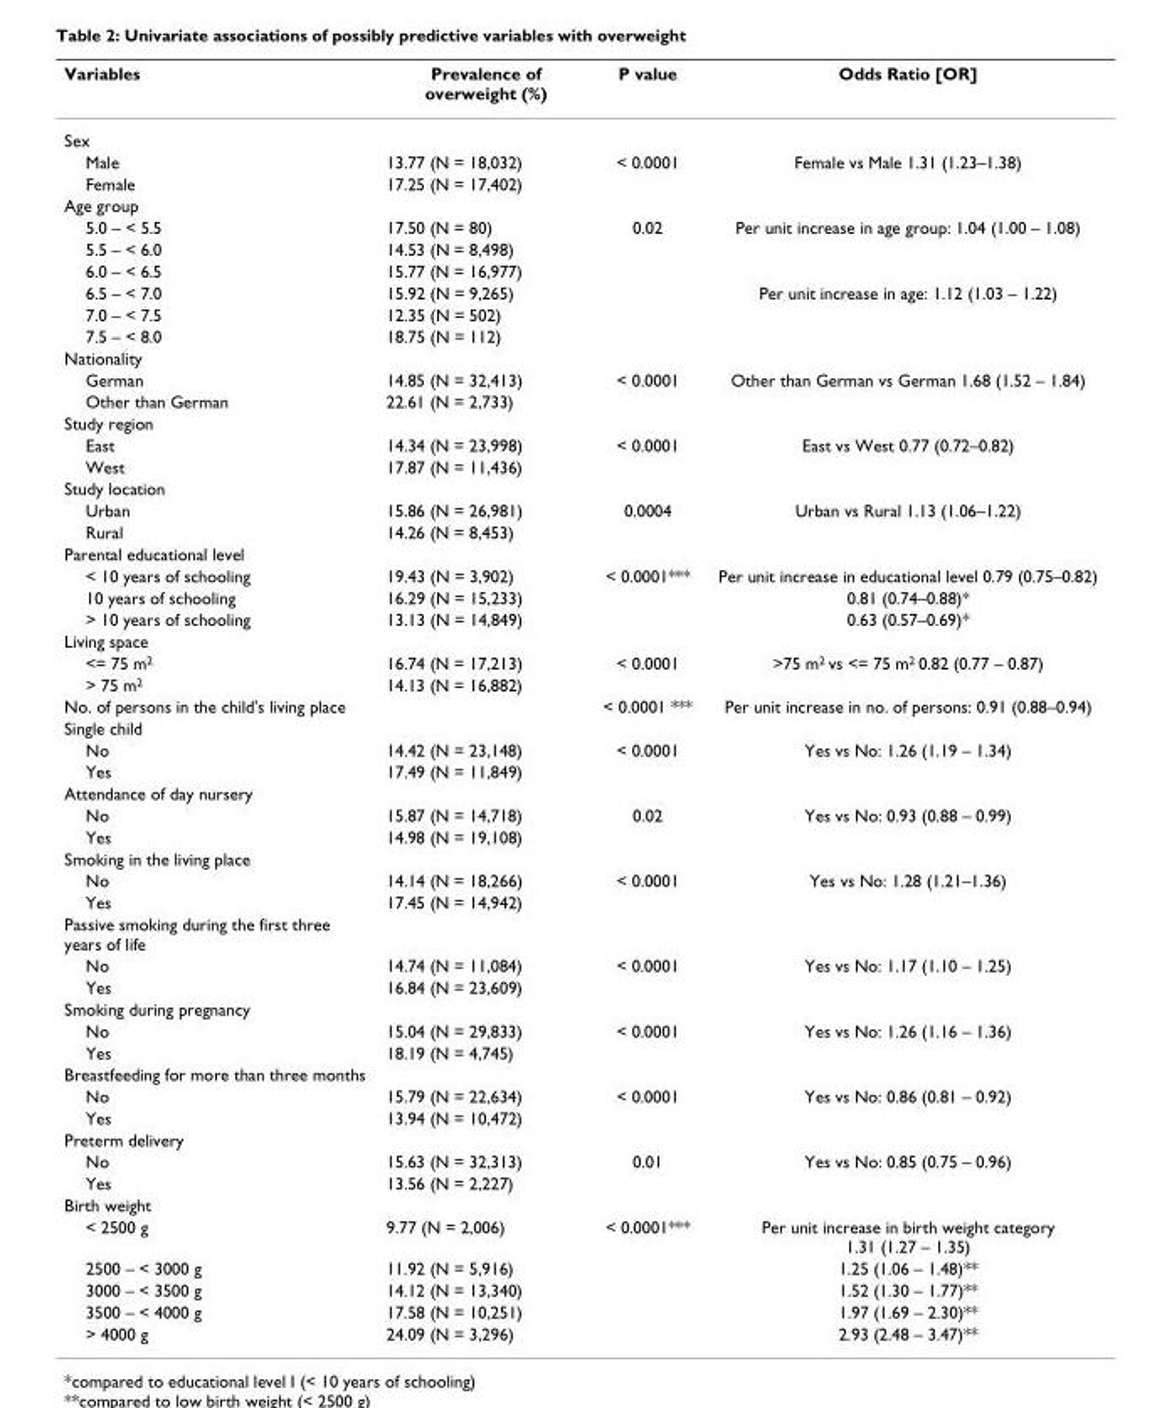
<table><thead><tr><td>Variables</td><td>Prevalence of overweight (%)</td><td>P value</td><td>Odds Ratio [OR]</td></tr></thead><tbody><tr><td colspan="4">Sex</td></tr><tr><td>Male</td><td>13.77 (N = 18,032)</td><td>&lt; 0.0001</td><td>Female vs Male 1.31 (1.23–1.38)</td></tr><tr><td>Female</td><td>17.25 (N = 17,402)</td><td></td><td></td></tr><tr><td colspan="4">Age group</td></tr><tr><td>5.0 – &lt; 5.5</td><td>17.50 (N = 80)</td><td>0.02</td><td>Per unit increase in age group: 1.04 (1.00 – 1.08)</td></tr><tr><td>5.5 – &lt; 6.0</td><td>14.53 (N = 8,498)</td><td></td><td></td></tr><tr><td>6.0 – &lt; 6.5</td><td>15.77 (N = 16,977)</td><td></td><td></td></tr><tr><td>6.5 – &lt; 7.0</td><td>15.92 (N = 9,265)</td><td></td><td>Per unit increase in age: 1.12 (1.03 – 1.22)</td></tr><tr><td>7.0 – &lt; 7.5</td><td>12.35 (N = 502)</td><td></td><td></td></tr><tr><td>7.5 – &lt; 8.0</td><td>18.75 (N = 112)</td><td></td><td></td></tr><tr><td colspan="4">Nationality</td></tr><tr><td>German</td><td>14.85 (N = 32,413)</td><td>&lt; 0.0001</td><td>Other than German vs German 1.68 (1.52 – 1.84)</td></tr><tr><td>Other than German</td><td>22.61 (N = 2,733)</td><td></td><td></td></tr><tr><td colspan="4">Study region</td></tr><tr><td>East</td><td>14.34 (N = 23,998)</td><td>&lt; 0.0001</td><td>East vs West 0.77 (0.72–0.82)</td></tr><tr><td>West</td><td>17.87 (N = 11,436)</td><td></td><td></td></tr><tr><td colspan="4">Study location</td></tr><tr><td>Urban</td><td>15.86 (N = 26,981)</td><td>0.0004</td><td>Urban vs Rural 1.13 (1.06–1.22)</td></tr><tr><td>Rural</td><td>14.26 (N = 8,453)</td><td></td><td></td></tr><tr><td colspan="4">Parental educational level</td></tr><tr><td>&lt; 10 years of schooling</td><td>19.43 (N = 3,902)</td><td>&lt; 0.0001***</td><td>Per unit increase in educational level 0.79 (0.75–0.82)</td></tr><tr><td>10 years of schooling</td><td>16.29 (N = 15,233)</td><td></td><td>0.81 (0.74–0.88)*</td></tr><tr><td>&gt; 10 years of schooling</td><td>13.13 (N = 14,849)</td><td></td><td>0.63 (0.57–0.69)*</td></tr><tr><td colspan="4">Living space</td></tr><tr><td>&lt;= 75 m<sup>2</sup></td><td>16.74 (N = 17,213)</td><td>&lt; 0.0001</td><td>&gt;75 m<sup>2</sup> vs &lt;= 75 m<sup>2</sup> 0.82 (0.77 – 0.87)</td></tr><tr><td>&gt; 75 m<sup>2</sup></td><td>14.13 (N = 16,882)</td><td></td><td></td></tr><tr><td>No. of persons in the child&#x27;s living place</td><td></td><td>&lt; 0.0001 ***</td><td>Per unit increase in no. of persons: 0.91 (0.88–0.94)</td></tr><tr><td colspan="4">Single child</td></tr><tr><td>No</td><td>14.42 (N = 23,148)</td><td>&lt; 0.0001</td><td>Yes vs No: 1.26 (1.19 – 1.34)</td></tr><tr><td>Yes</td><td>17.49 (N = 11,849)</td><td></td><td></td></tr><tr><td colspan="4">Attendance of day nursery</td></tr><tr><td>No</td><td>15.87 (N = 14,718)</td><td>0.02</td><td>Yes vs No: 0.93 (0.88 – 0.99)</td></tr><tr><td>Yes</td><td>14.98 (N = 19,108)</td><td></td><td></td></tr><tr><td colspan="4">Smoking in the living place</td></tr><tr><td>No</td><td>14.14 (N = 18,266)</td><td>&lt; 0.0001</td><td>Yes vs No: 1.28 (1.21–1.36)</td></tr><tr><td>Yes</td><td>17.45 (N = 14,942)</td><td></td><td></td></tr><tr><td colspan="4">Passive smoking during the first three years of life</td></tr><tr><td>No</td><td>14.74 (N = 11,084)</td><td>&lt; 0.0001</td><td>Yes vs No: 1.17 (1.10 – 1.25)</td></tr><tr><td>Yes</td><td>16.84 (N = 23,609)</td><td></td><td></td></tr><tr><td colspan="4">Smoking during pregnancy</td></tr><tr><td>No</td><td>15.04 (N = 29,833)</td><td>&lt; 0.0001</td><td>Yes vs No: 1.26 (1.16 – 1.36)</td></tr><tr><td>Yes</td><td>18.19 (N = 4,745)</td><td></td><td></td></tr><tr><td colspan="4">Breastfeeding for more than three months</td></tr><tr><td>No</td><td>15.79 (N = 22,634)</td><td>&lt; 0.0001</td><td>Yes vs No: 0.86 (0.81 – 0.92)</td></tr><tr><td>Yes</td><td>13.94 (N = 10,472)</td><td></td><td></td></tr><tr><td colspan="4">Preterm delivery</td></tr><tr><td>No</td><td>15.63 (N = 32,313)</td><td>0.01</td><td>Yes vs No: 0.85 (0.75 – 0.96)</td></tr><tr><td>Yes</td><td>13.56 (N = 2,227)</td><td></td><td></td></tr><tr><td colspan="4">Birth weight</td></tr><tr><td>&lt; 2500 g</td><td>9.77 (N = 2,006)</td><td>&lt; 0.0001***</td><td>Per unit increase in birth weight category 1.31 (1.27 – 1.35)</td></tr><tr><td>2500 – &lt; 3000 g</td><td>11.92 (N = 5,916)</td><td></td><td>1.25 (1.06 – 1.48)**</td></tr><tr><td>3000 – &lt; 3500 g</td><td>14.12 (N = 13,340)</td><td></td><td>1.52 (1.30 – 1.77)**</td></tr><tr><td>3500 – &lt; 4000 g</td><td>17.58 (N = 10,251)</td><td></td><td>1.97 (1.69 – 2.30)**</td></tr><tr><td>&gt; 4000 g</td><td>24.09 (N = 3,296)</td><td></td><td>2.93 (2.48 – 3.47)**</td></tr></tbody></table>